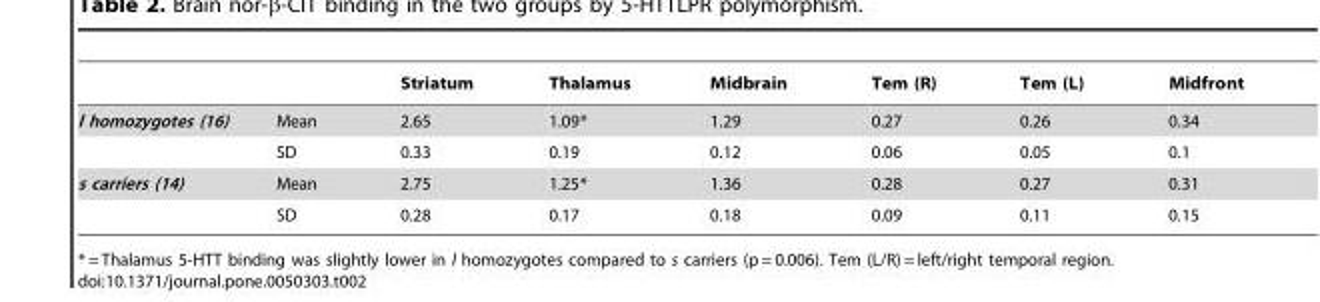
<table><thead><tr><td></td><td></td><td>Striatum</td><td>Thalamus</td><td>Midbrain</td><td>Tem (R)</td><td>Tem (L)</td><td>Midfront</td></tr></thead><tbody><tr><td rowspan="2">l homozygotes (16)</td><td>Mean</td><td>2.65</td><td>1.09*</td><td>1.29</td><td>0.27</td><td>0.26</td><td>0.34</td></tr><tr><td>SD</td><td>0.33</td><td>0.19</td><td>0.12</td><td>0.06</td><td>0.05</td><td>0.1</td></tr><tr><td rowspan="2">s carriers (14)</td><td>Mean</td><td>2.75</td><td>1.25*</td><td>1.36</td><td>0.28</td><td>0.27</td><td>0.31</td></tr><tr><td>SD</td><td>0.28</td><td>0.17</td><td>0.18</td><td>0.09</td><td>0.11</td><td>0.15</td></tr></tbody></table>